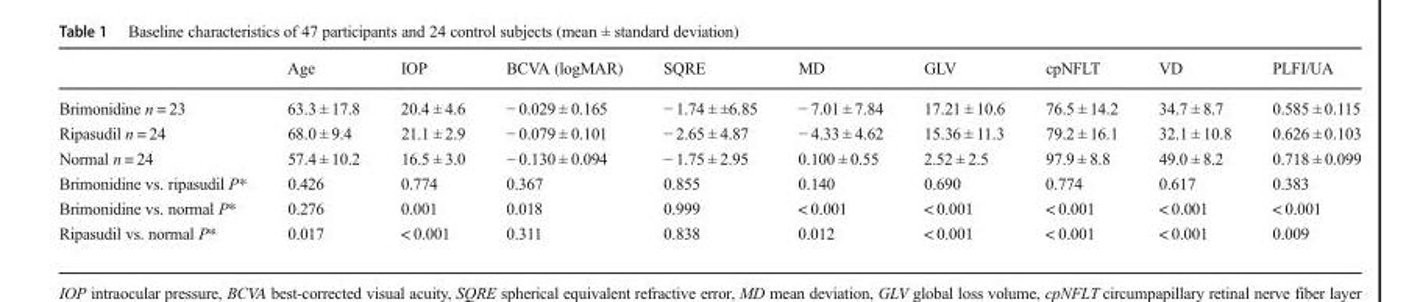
<table><thead><tr><td></td><td>Age</td><td>IOP</td><td>BCVA (logMAR)</td><td>SQRE</td><td>MD</td><td>GLV</td><td>cpNFLT</td><td>VD</td><td>PLFI/UA</td></tr></thead><tbody><tr><td>Brimonidine n = 23</td><td>63.3 ± 17.8</td><td>20.4 ± 4.6</td><td>− 0.029 ± 0.165</td><td>− 1.74 ± ±6.85</td><td>− 7.01 ± 7.84</td><td>17.21 ± 10.6</td><td>76.5 ± 14.2</td><td>34.7 ± 8.7</td><td>0.585 ± 0.115</td></tr><tr><td>Ripasudil n = 24</td><td>68.0 ± 9.4</td><td>21.1 ± 2.9</td><td>− 0.079 ± 0.101</td><td>− 2.65 ± 4.87</td><td>− 4.33 ± 4.62</td><td>15.36 ± 11.3</td><td>79.2 ± 16.1</td><td>32.1 ± 10.8</td><td>0.626 ± 0.103</td></tr><tr><td>Normal n = 24</td><td>57.4 ± 10.2</td><td>16.5 ± 3.0</td><td>− 0.130 ± 0.094</td><td>− 1.75 ± 2.95</td><td>0.100 ± 0.55</td><td>2.52 ± 2.5</td><td>97.9 ± 8.8</td><td>49.0 ± 8.2</td><td>0.718 ± 0.099</td></tr><tr><td>Brimonidine vs. ripasudil P*</td><td>0.426</td><td>0.774</td><td>0.367</td><td>0.855</td><td>0.140</td><td>0.690</td><td>0.774</td><td>0.617</td><td>0.383</td></tr><tr><td>Brimonidine vs. normal P*</td><td>0.276</td><td>0.001</td><td>0.018</td><td>0.999</td><td>&lt; 0.001</td><td>&lt; 0.001</td><td>&lt; 0.001</td><td>&lt; 0.001</td><td>&lt; 0.001</td></tr><tr><td>Ripasudil vs. normal P*</td><td>0.017</td><td>&lt; 0.001</td><td>0.311</td><td>0.838</td><td>0.012</td><td>&lt; 0.001</td><td>&lt; 0.001</td><td>&lt; 0.001</td><td>0.009</td></tr></tbody></table>